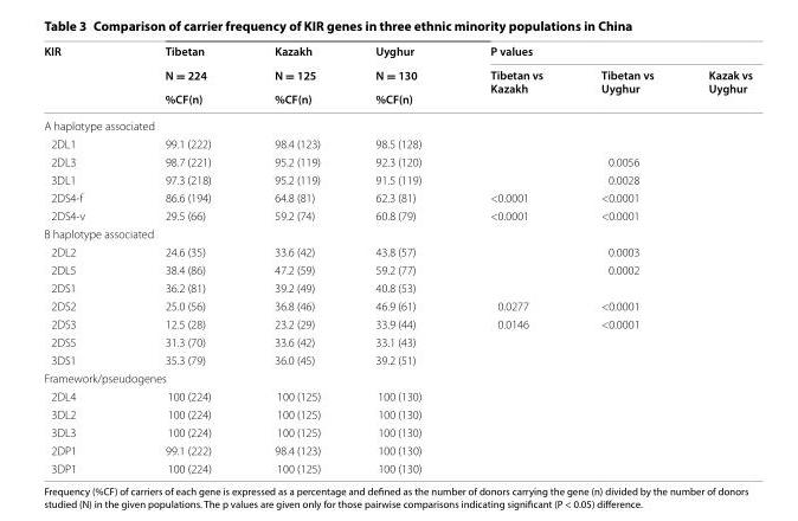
<table><thead><tr><td rowspan="3">KIR</td><td rowspan="3">Tibetan N = 224 %CF(n)</td><td rowspan="3">Kazakh N = 125 %CF(n)</td><td rowspan="3">Uyghur N = 130 %CF(n)</td><td colspan="3">P values</td></tr><tr><td rowspan="2">Tibetan vs Kazakh</td><td rowspan="2">Tibetan vs Uyghur</td><td rowspan="2">Kazak vs Uyghur</td></tr><tr></tr></thead><tbody><tr><td colspan="7">A haplotype associated</td></tr><tr><td>2DL1</td><td>99.1 (222)</td><td>98.4 (123)</td><td>98.5 (128)</td><td></td><td></td><td></td></tr><tr><td>2DL3</td><td>98.7 (221)</td><td>95.2 (119)</td><td>92.3 (120)</td><td></td><td>0.0056</td><td></td></tr><tr><td>3DL1</td><td>97.3 (218)</td><td>95.2 (119)</td><td>91.5 (119)</td><td></td><td>0.0028</td><td></td></tr><tr><td>2DS4-f</td><td>86.6 (194)</td><td>64.8 (81)</td><td>62.3 (81)</td><td>&lt;0.0001</td><td>&lt;0.0001</td><td></td></tr><tr><td>2DS4-v</td><td>29.5 (66)</td><td>59.2 (74)</td><td>60.8 (79)</td><td>&lt;0.0001</td><td>&lt;0.0001</td><td></td></tr><tr><td colspan="7">B haplotype associated</td></tr><tr><td>2DL2</td><td>24.6 (35)</td><td>33.6 (42)</td><td>43.8 (57)</td><td></td><td>0.0003</td><td></td></tr><tr><td>2DL5</td><td>38.4 (86)</td><td>47.2 (59)</td><td>59.2 (77)</td><td></td><td>0.0002</td><td></td></tr><tr><td>2DS1</td><td>36.2 (81)</td><td>39.2 (49)</td><td>40.8 (53)</td><td></td><td></td><td></td></tr><tr><td>2DS2</td><td>25.0 (56)</td><td>36.8 (46)</td><td>46.9 (61)</td><td>0.0277</td><td>&lt;0.0001</td><td></td></tr><tr><td>2DS3</td><td>12.5 (28)</td><td>23.2 (29)</td><td>33.9 (44)</td><td>0.0146</td><td>&lt;0.0001</td><td></td></tr><tr><td>2DS5</td><td>31.3 (70)</td><td>33.6 (42)</td><td>33.1 (43)</td><td></td><td></td><td></td></tr><tr><td>3DS1</td><td>35.3 (79)</td><td>36.0 (45)</td><td>39.2 (51)</td><td></td><td></td><td></td></tr><tr><td colspan="7">Framework/pseudogenes</td></tr><tr><td>2DL4</td><td>100 (224)</td><td>100 (125)</td><td>100 (130)</td><td></td><td></td><td></td></tr><tr><td>3DL2</td><td>100 (224)</td><td>100 (125)</td><td>100 (130)</td><td></td><td></td><td></td></tr><tr><td>3DL3</td><td>100 (224)</td><td>100 (125)</td><td>100 (130)</td><td></td><td></td><td></td></tr><tr><td>2DP1</td><td>99.1 (222)</td><td>98.4 (123)</td><td>100 (130)</td><td></td><td></td><td></td></tr><tr><td>3DP1</td><td>100 (224)</td><td>100 (125)</td><td>100 (130)</td><td></td><td></td><td></td></tr></tbody></table>